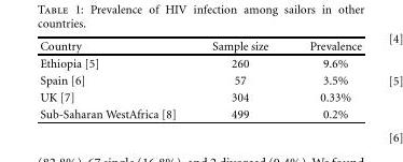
<table><thead><tr><td>Country</td><td>Sample size</td><td>Prevalence</td></tr></thead><tbody><tr><td>Ethiopia [5]</td><td>260</td><td>9.6%</td></tr><tr><td>Spain [6]</td><td>57</td><td>3.5%</td></tr><tr><td>UK [7]</td><td>304</td><td>0.33%</td></tr><tr><td>Sub-Saharan WestAfrica [8]</td><td>499</td><td>0.2%</td></tr></tbody></table>